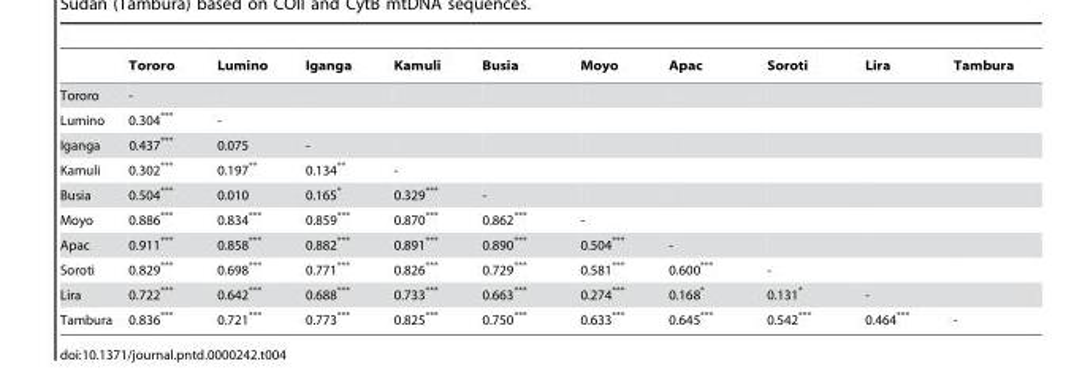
<table><thead><tr><td></td><td>Tororo</td><td>Lumino</td><td>Iganga</td><td>Kamuli</td><td>Busia</td><td>Moyo</td><td>Apac</td><td>Soroti</td><td>Lira</td><td>Tambura</td></tr></thead><tbody><tr><td>Tororo</td><td>-</td><td></td><td></td><td></td><td></td><td></td><td></td><td></td><td></td><td></td></tr><tr><td>Lumino</td><td>0.304***</td><td>-</td><td></td><td></td><td></td><td></td><td></td><td></td><td></td><td></td></tr><tr><td>Iganga</td><td>0.437***</td><td>0.075</td><td>-</td><td></td><td></td><td></td><td></td><td></td><td></td><td></td></tr><tr><td>Kamuli</td><td>0.302***</td><td>0.197**</td><td>0.134**</td><td>-</td><td></td><td></td><td></td><td></td><td></td><td></td></tr><tr><td>Busia</td><td>0.504***</td><td>0.010</td><td>0.165*</td><td>0.329***</td><td>-</td><td></td><td></td><td></td><td></td><td></td></tr><tr><td>Moyo</td><td>0.886***</td><td>0.834***</td><td>0.859***</td><td>0.870***</td><td>0.862***</td><td>-</td><td></td><td></td><td></td><td></td></tr><tr><td>Apac</td><td>0.911***</td><td>0.858***</td><td>0.882***</td><td>0.891***</td><td>0.890***</td><td>0.504***</td><td>-</td><td></td><td></td><td></td></tr><tr><td>Soroti</td><td>0.829***</td><td>0.698***</td><td>0.771***</td><td>0.826***</td><td>0.729***</td><td>0.581***</td><td>0.600***</td><td>-</td><td></td><td></td></tr><tr><td>Lira</td><td>0.722***</td><td>0.642***</td><td>0.688***</td><td>0.733***</td><td>0.663***</td><td>0.274***</td><td>0.168*</td><td>0.131*</td><td>-</td><td></td></tr><tr><td>Tambura</td><td>0.836***</td><td>0.721***</td><td>0.773***</td><td>0.825***</td><td>0.750***</td><td>0.633***</td><td>0.645***</td><td>0.542***</td><td>0.464***</td><td>-</td></tr></tbody></table>